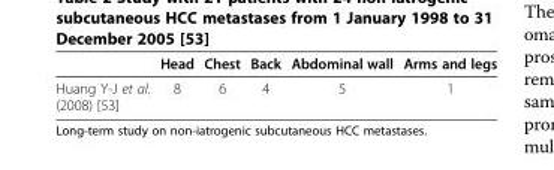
<table><thead><tr><td></td><td>Head</td><td>Chest</td><td>Back</td><td>Abdominal wall</td><td>Arms and legs</td></tr></thead><tbody><tr><td>Huang Y-J et al. (2008) [53]</td><td>8</td><td>6</td><td>4</td><td>5</td><td>1</td></tr></tbody></table>